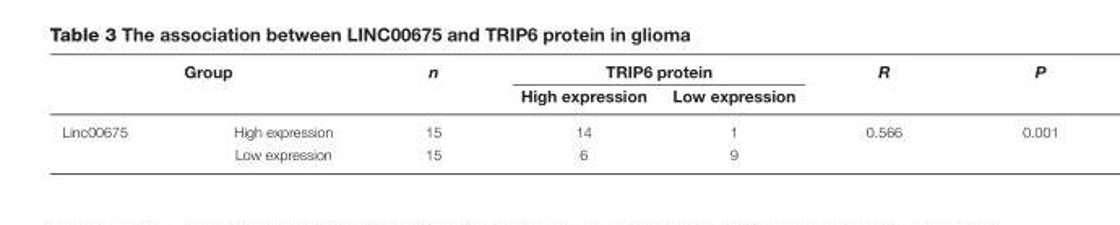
<table><thead><tr><td colspan="2">Group</td><td rowspan="2">n</td><td colspan="2">TRIP6 protein</td><td rowspan="2">R</td><td rowspan="2">P</td></tr><tr><td></td><td></td><td>High expression</td><td>Low expression</td></tr></thead><tbody><tr><td rowspan="2">Linc00675</td><td>High expression</td><td>15</td><td>14</td><td>1</td><td>0.566</td><td>0.001</td></tr><tr><td>Low expression</td><td>15</td><td>6</td><td>9</td><td></td><td></td></tr></tbody></table>